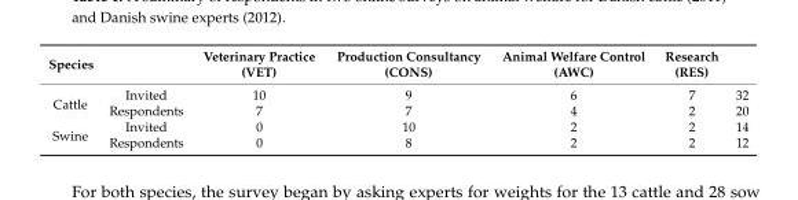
<table><thead><tr><td>Species</td><td></td><td>Veterinary Practice (VET)</td><td>Production Consultancy (CONS)</td><td>Animal Welfare Control (AWC)</td><td>Research (RES)</td><td></td></tr></thead><tbody><tr><td rowspan="2">Cattle</td><td>Invited</td><td>10</td><td>9</td><td>6</td><td>7</td><td>32</td></tr><tr><td>Respondents</td><td>7</td><td>7</td><td>4</td><td>2</td><td>20</td></tr><tr><td rowspan="2">Swine</td><td>Invited</td><td>0</td><td>10</td><td>2</td><td>2</td><td>14</td></tr><tr><td>Respondents</td><td>0</td><td>8</td><td>2</td><td>2</td><td>12</td></tr></tbody></table>